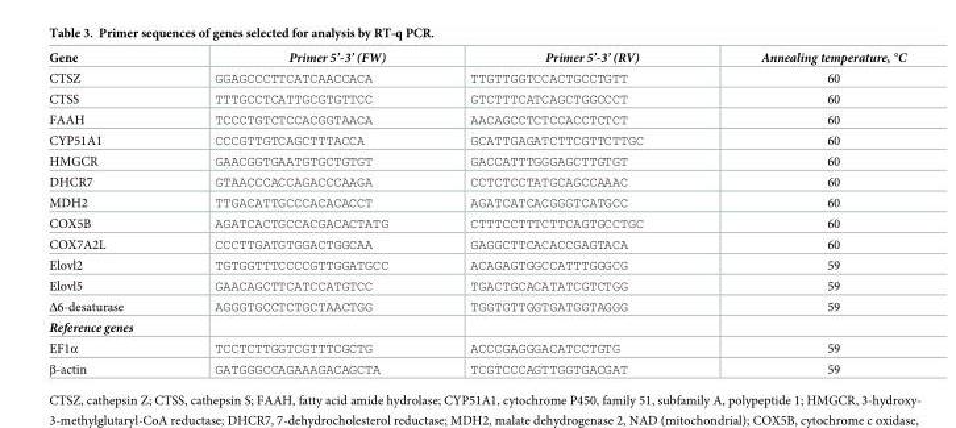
<table><thead><tr><td>Gene</td><td>Primer 5’-3’ (FW)</td><td>Primer 5’-3’ (RV)</td><td>Annealing temperature, °C</td></tr></thead><tbody><tr><td>CTSZ</td><td>GGAGCCCTTCATCAACCACA</td><td>TTGTTGGTCCACTGCCTGTT</td><td>60</td></tr><tr><td>CTSS</td><td>TTTGCCTCATTGCGTGTTCC</td><td>GTCTTTCATCAGCTGGCCCT</td><td>60</td></tr><tr><td>FAAH</td><td>TCCCTGTCTCCACGGTAACA</td><td>AACAGCCTCTCCACCTCTCT</td><td>60</td></tr><tr><td>CYP51A1</td><td>CCCGTTGTCAGCTTTACCA</td><td>GCATTGAGATCTTCGTTCTTGC</td><td>60</td></tr><tr><td>HMGCR</td><td>GAACGGTGAATGTGCTGTGT</td><td>GACCATTTGGGAGCTTGTGT</td><td>60</td></tr><tr><td>DHCR7</td><td>GTAACCCACCAGACCCAAGA</td><td>CCTCTCCTATGCAGCCAAAC</td><td>60</td></tr><tr><td>MDH2</td><td>TTGACATTGCCCACACACCT</td><td>AGATCATCACGGGTCATGCC</td><td>60</td></tr><tr><td>COX5B</td><td>AGATCACTGCCACGACACTATG</td><td>CTTTCCTTTCTTCAGTGCCTGC</td><td>60</td></tr><tr><td>COX7A2L</td><td>CCCTTGATGTGGACTGGCAA</td><td>GAGGCTTCACACCGAGTACA</td><td>60</td></tr><tr><td>Elovl2</td><td>TGTGGTTTCCCCGTTGGATGCC</td><td>ACAGAGTGGCCATTTGGGCG</td><td>59</td></tr><tr><td>Elovl5</td><td>GAACAGCTTCATCCATGTCC</td><td>TGACTGCACATATCGTCTGG</td><td>59</td></tr><tr><td>Δ6-desaturase</td><td>AGGGTGCCTCTGCTAACTGG</td><td>TGGTGTTGGTGATGGTAGGG</td><td>59</td></tr><tr><td colspan="4">Reference genes</td></tr><tr><td>EF1α</td><td>TCCTCTTGGTCGTTTCGCTG</td><td>ACCCGAGGGACATCCTGTG</td><td>59</td></tr><tr><td>β-actin</td><td>GATGGGCCAGAAAGACAGCTA</td><td>TCGTCCCAGTTGGTGACGAT</td><td>59</td></tr></tbody></table>